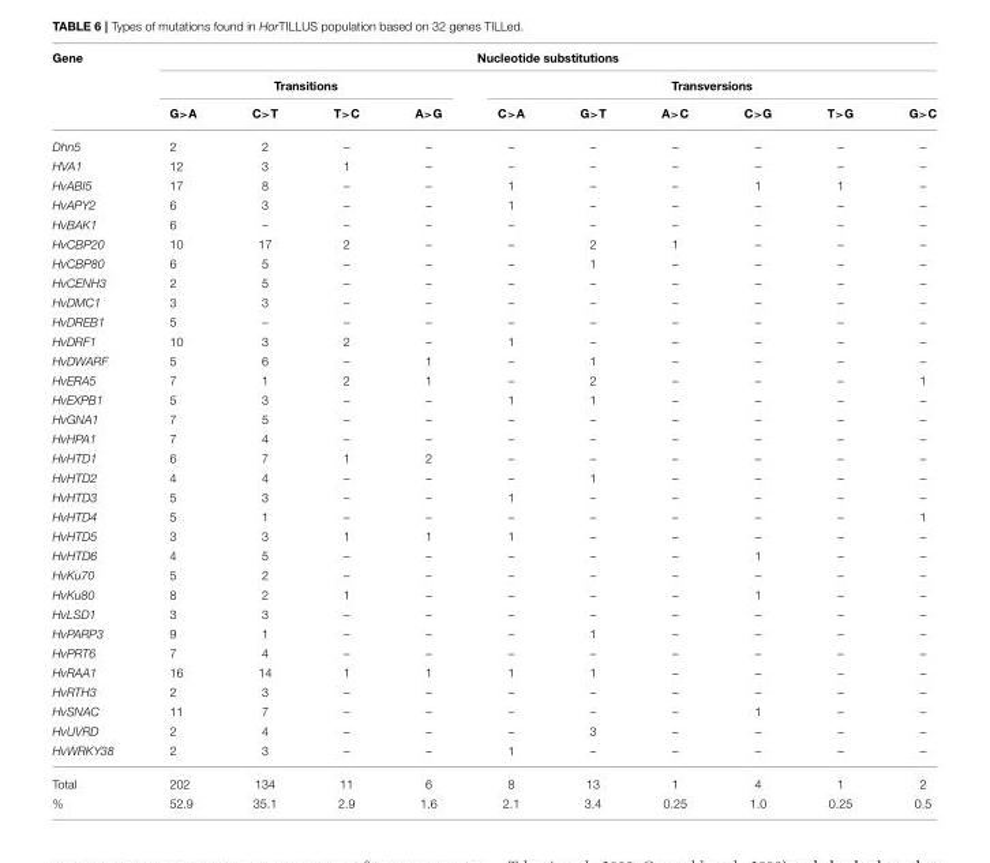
<table><thead><tr><td rowspan="3">Gene</td><td colspan="10">Nucleotide substitutions</td></tr><tr><td colspan="4">Transitions</td><td colspan="6">Transversions</td></tr><tr><td>G&gt;A</td><td>C&gt;T</td><td>T&gt;C</td><td>A&gt;G</td><td>C&gt;A</td><td>G&gt;T</td><td>A&gt;C</td><td>C&gt;G</td><td>T&gt;G</td><td>G&gt;C</td></tr></thead><tbody><tr><td>Dhn5</td><td>2</td><td>2</td><td>–</td><td>–</td><td>–</td><td>–</td><td>–</td><td>–</td><td>–</td><td>–</td></tr><tr><td>HVA1</td><td>12</td><td>3</td><td>1</td><td>–</td><td>–</td><td>–</td><td>–</td><td>–</td><td>–</td><td>–</td></tr><tr><td>HvABI5</td><td>17</td><td>8</td><td>–</td><td>–</td><td>1</td><td>–</td><td>–</td><td>1</td><td>1</td><td>–</td></tr><tr><td>HvAPY2</td><td>6</td><td>3</td><td>–</td><td>–</td><td>1</td><td>–</td><td>–</td><td>–</td><td>–</td><td>–</td></tr><tr><td>HvBAK1</td><td>6</td><td>–</td><td>–</td><td>–</td><td>–</td><td>–</td><td>–</td><td>–</td><td>–</td><td>–</td></tr><tr><td>HvCBP20</td><td>10</td><td>17</td><td>2</td><td>–</td><td>–</td><td>2</td><td>1</td><td>–</td><td>–</td><td>–</td></tr><tr><td>HvCBP80</td><td>6</td><td>5</td><td>–</td><td>–</td><td>–</td><td>1</td><td>–</td><td>–</td><td>–</td><td>–</td></tr><tr><td>HvCENH3</td><td>2</td><td>5</td><td>–</td><td>–</td><td>–</td><td>–</td><td>–</td><td>–</td><td>–</td><td>–</td></tr><tr><td>HvDMC1</td><td>3</td><td>3</td><td>–</td><td>–</td><td>–</td><td>–</td><td>–</td><td>–</td><td>–</td><td>–</td></tr><tr><td>HvDREB1</td><td>5</td><td>–</td><td>–</td><td>–</td><td>–</td><td>–</td><td>–</td><td>–</td><td>–</td><td>–</td></tr><tr><td>HvDRF1</td><td>10</td><td>3</td><td>2</td><td>–</td><td>1</td><td>–</td><td>–</td><td>–</td><td>–</td><td>–</td></tr><tr><td>HvDWARF</td><td>5</td><td>6</td><td>–</td><td>1</td><td>–</td><td>1</td><td>–</td><td>–</td><td>–</td><td>–</td></tr><tr><td>HvERA5</td><td>7</td><td>1</td><td>2</td><td>1</td><td>–</td><td>2</td><td>–</td><td>–</td><td>–</td><td>1</td></tr><tr><td>HvEXPB1</td><td>5</td><td>3</td><td>–</td><td>–</td><td>1</td><td>1</td><td>–</td><td>–</td><td>–</td><td>–</td></tr><tr><td>HvGNA1</td><td>7</td><td>5</td><td>–</td><td>–</td><td>–</td><td>–</td><td>–</td><td>–</td><td>–</td><td>–</td></tr><tr><td>HvHPA1</td><td>7</td><td>4</td><td>–</td><td>–</td><td>–</td><td>–</td><td>–</td><td>–</td><td>–</td><td>–</td></tr><tr><td>HvHTD1</td><td>6</td><td>7</td><td>1</td><td>2</td><td>–</td><td>–</td><td>–</td><td>–</td><td>–</td><td>–</td></tr><tr><td>HvHTD2</td><td>4</td><td>4</td><td>–</td><td>–</td><td>–</td><td>1</td><td>–</td><td>–</td><td>–</td><td>–</td></tr><tr><td>HvHTD3</td><td>5</td><td>3</td><td>–</td><td>–</td><td>1</td><td>–</td><td>–</td><td>–</td><td>–</td><td>–</td></tr><tr><td>HvHTD4</td><td>5</td><td>1</td><td>–</td><td>–</td><td>–</td><td>–</td><td>–</td><td>–</td><td>–</td><td>1</td></tr><tr><td>HvHTD5</td><td>3</td><td>3</td><td>1</td><td>1</td><td>1</td><td>–</td><td>–</td><td>–</td><td>–</td><td>–</td></tr><tr><td>HvHTD6</td><td>4</td><td>5</td><td>–</td><td>–</td><td>–</td><td>–</td><td>–</td><td>1</td><td>–</td><td>–</td></tr><tr><td>HvKu70</td><td>5</td><td>2</td><td>–</td><td>–</td><td>–</td><td>–</td><td>–</td><td>–</td><td>–</td><td>–</td></tr><tr><td>HvKu80</td><td>8</td><td>2</td><td>1</td><td>–</td><td>–</td><td>–</td><td>–</td><td>1</td><td>–</td><td>–</td></tr><tr><td>HvLSD1</td><td>3</td><td>3</td><td>–</td><td>–</td><td>–</td><td>–</td><td>–</td><td>–</td><td>–</td><td>–</td></tr><tr><td>HvPARP3</td><td>9</td><td>1</td><td>–</td><td>–</td><td>–</td><td>1</td><td>–</td><td>–</td><td>–</td><td>–</td></tr><tr><td>HvPRT6</td><td>7</td><td>4</td><td>–</td><td>–</td><td>–</td><td>–</td><td>–</td><td>–</td><td>–</td><td>–</td></tr><tr><td>HvRAA1</td><td>16</td><td>14</td><td>1</td><td>1</td><td>1</td><td>1</td><td>–</td><td>–</td><td>–</td><td>–</td></tr><tr><td>HvRTH3</td><td>2</td><td>3</td><td>–</td><td>–</td><td>–</td><td>–</td><td>–</td><td>–</td><td>–</td><td>–</td></tr><tr><td>HvSNAC</td><td>11</td><td>7</td><td>–</td><td>–</td><td>–</td><td>–</td><td>–</td><td>1</td><td>–</td><td>–</td></tr><tr><td>HvUVRD</td><td>2</td><td>4</td><td>–</td><td>–</td><td>–</td><td>3</td><td>–</td><td>–</td><td>–</td><td>–</td></tr><tr><td>HvWRKY38</td><td>2</td><td>3</td><td>–</td><td>–</td><td>1</td><td>–</td><td>–</td><td>–</td><td>–</td><td>–</td></tr><tr><td>Total</td><td>202</td><td>134</td><td>11</td><td>6</td><td>8</td><td>13</td><td>1</td><td>4</td><td>1</td><td>2</td></tr><tr><td>%</td><td>52.9</td><td>35.1</td><td>2.9</td><td>1.6</td><td>2.1</td><td>3.4</td><td>0.25</td><td>1.0</td><td>0.25</td><td>0.5</td></tr></tbody></table>